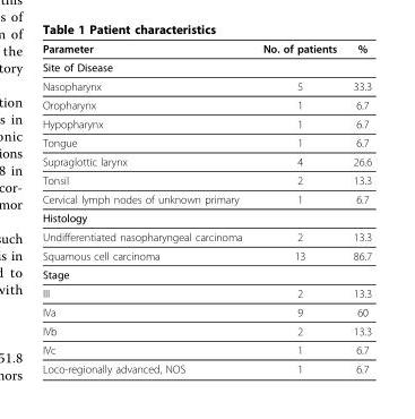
<table><thead><tr><td>Parameter</td><td>No. of patients</td><td>%</td></tr></thead><tbody><tr><td colspan="3">Site of Disease</td></tr><tr><td>Nasopharynx</td><td>5</td><td>33.3</td></tr><tr><td>Oropharynx</td><td>1</td><td>6.7</td></tr><tr><td>Hypopharynx</td><td>1</td><td>6.7</td></tr><tr><td>Tongue</td><td>1</td><td>6.7</td></tr><tr><td>Supraglottic larynx</td><td>4</td><td>26.6</td></tr><tr><td>Tonsil</td><td>2</td><td>13.3</td></tr><tr><td>Cervical lymph nodes of unknown primary</td><td>1</td><td>6.7</td></tr><tr><td colspan="3">Histology</td></tr><tr><td>Undifferentiated nasopharyngeal carcinoma</td><td>2</td><td>13.3</td></tr><tr><td>Squamous cell carcinoma</td><td>13</td><td>86.7</td></tr><tr><td colspan="3">Stage</td></tr><tr><td>III</td><td>2</td><td>13.3</td></tr><tr><td>IVa</td><td>9</td><td>60</td></tr><tr><td>IVb</td><td>2</td><td>13.3</td></tr><tr><td>IVc</td><td>1</td><td>6.7</td></tr><tr><td>Loco-regionally advanced, NOS</td><td>1</td><td>6.7</td></tr></tbody></table>